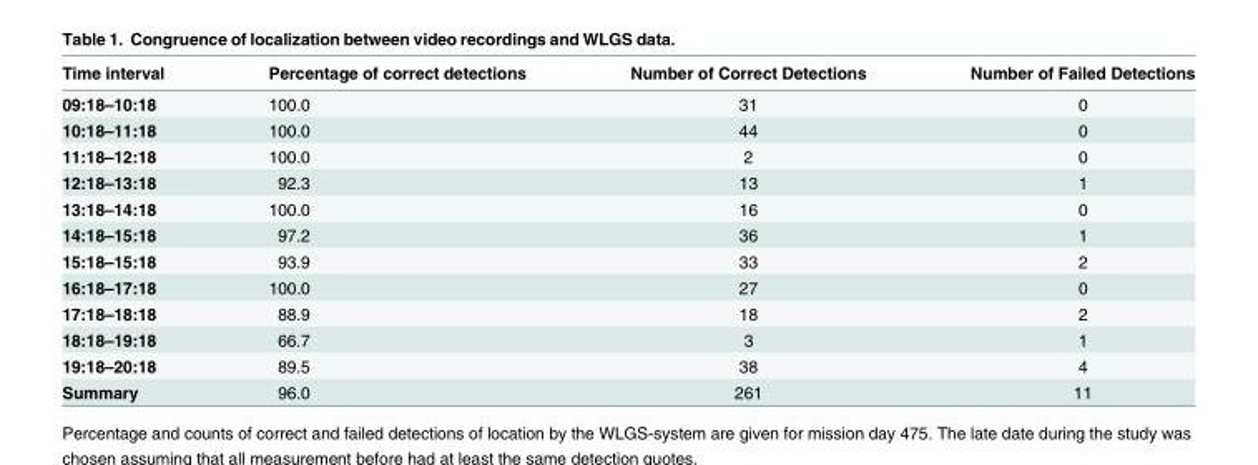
<table><thead><tr><td>Time interval</td><td>Percentage of correct detections</td><td>Number of Correct Detections</td><td>Number of Failed Detections</td></tr></thead><tbody><tr><td>09:18–10:18</td><td>100.0</td><td>31</td><td>0</td></tr><tr><td>10:18–11:18</td><td>100.0</td><td>44</td><td>0</td></tr><tr><td>11:18–12:18</td><td>100.0</td><td>2</td><td>0</td></tr><tr><td>12:18–13:18</td><td>92.3</td><td>13</td><td>1</td></tr><tr><td>13:18–14:18</td><td>100.0</td><td>16</td><td>0</td></tr><tr><td>14:18–15:18</td><td>97.2</td><td>36</td><td>1</td></tr><tr><td>15:18–15:18</td><td>93.9</td><td>33</td><td>2</td></tr><tr><td>16:18–17:18</td><td>100.0</td><td>27</td><td>0</td></tr><tr><td>17:18–18:18</td><td>88.9</td><td>18</td><td>2</td></tr><tr><td>18:18–19:18</td><td>66.7</td><td>3</td><td>1</td></tr><tr><td>19:18–20:18</td><td>89.5</td><td>38</td><td>4</td></tr><tr><td>Summary</td><td>96.0</td><td>261</td><td>11</td></tr></tbody></table>